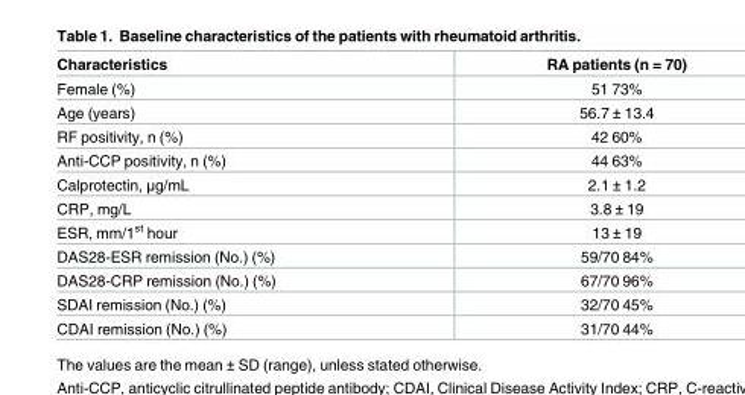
<table><thead><tr><td>Characteristics</td><td>RA patients (n = 70)</td></tr></thead><tbody><tr><td>Female (%)</td><td>51 73%</td></tr><tr><td>Age (years)</td><td>56.7 ± 13.4</td></tr><tr><td>RF positivity, n (%)</td><td>42 60%</td></tr><tr><td>Anti-CCP positivity, n (%)</td><td>44 63%</td></tr><tr><td>Calprotectin, μg/mL</td><td>2.1 ± 1.2</td></tr><tr><td>CRP, mg/L</td><td>3.8 ± 19</td></tr><tr><td>ESR, mm/1<sup>st</sup> hour</td><td>13 ± 19</td></tr><tr><td>DAS28-ESR remission (No.) (%)</td><td>59/70 84%</td></tr><tr><td>DAS28-CRP remission (No.) (%)</td><td>67/70 96%</td></tr><tr><td>SDAI remission (No.) (%)</td><td>32/70 45%</td></tr><tr><td>CDAI remission (No.) (%)</td><td>31/70 44%</td></tr></tbody></table>